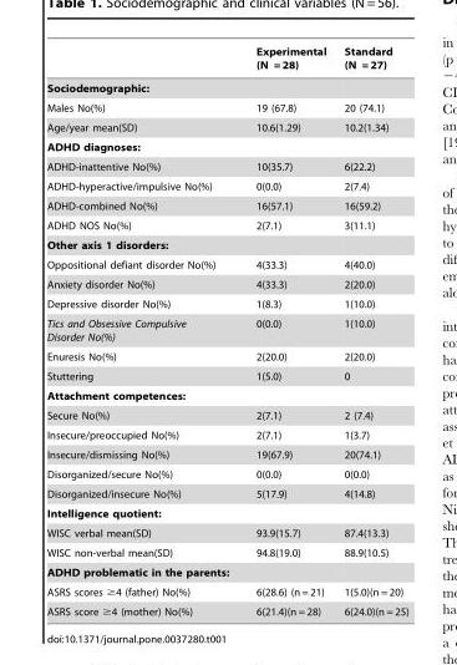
<table><thead><tr><td></td><td>Experimental (N = 28)</td><td>Standard (N = 27)</td></tr></thead><tbody><tr><td colspan="3">Sociodemographic:</td></tr><tr><td>Males No(%)</td><td>19 (67.8)</td><td>20 (74.1)</td></tr><tr><td>Age/year mean(SD)</td><td>10.6(1.29)</td><td>10.2(1.34)</td></tr><tr><td colspan="3">ADHD diagnoses:</td></tr><tr><td>ADHD-inattentive No(%)</td><td>10(35.7)</td><td>6(22.2)</td></tr><tr><td>ADHD-hyperactive/impulsive No(%)</td><td>0(0.0)</td><td>2(7.4)</td></tr><tr><td>ADHD-combined No(%)</td><td>16(57.1)</td><td>16(59.2)</td></tr><tr><td>ADHD NOS No(%)</td><td>2(7.1)</td><td>3(11.1)</td></tr><tr><td colspan="3">Other axis 1 disorders:</td></tr><tr><td>Oppositional defiant disorder No(%)</td><td>4(33.3)</td><td>4(40.0)</td></tr><tr><td>Anxiety disorder No(%)</td><td>4(33.3)</td><td>2(20.0)</td></tr><tr><td>Depressive disorder No(%)</td><td>1(8.3)</td><td>1(10.0)</td></tr><tr><td>Tics and Obsessive Compulsive Disorder No(%)</td><td>0(0.0)</td><td>1(10.0)</td></tr><tr><td>Enuresis No(%)</td><td>2(20.0)</td><td>2(20.0)</td></tr><tr><td>Stuttering</td><td>1(5.0)</td><td>0</td></tr><tr><td colspan="3">Attachment competences:</td></tr><tr><td>Secure No(%)</td><td>2(7.1)</td><td>2 (7.4)</td></tr><tr><td>Insecure/preoccupied No(%)</td><td>2(7.1)</td><td>1(3.7)</td></tr><tr><td>Insecure/dismissing No(%)</td><td>19(67.9)</td><td>20(74.1)</td></tr><tr><td>Disorganized/secure No(%)</td><td>0(0.0)</td><td>0(0.0)</td></tr><tr><td>Disorganized/insecure No(%)</td><td>5(17.9)</td><td>4(14.8)</td></tr><tr><td colspan="3">Intelligence quotient:</td></tr><tr><td>WISC verbal mean(SD)</td><td>93.9(15.7)</td><td>87.4(13.3)</td></tr><tr><td>WISC non-verbal mean(SD)</td><td>94.8(19.0)</td><td>88.9(10.5)</td></tr><tr><td colspan="3">ADHD problematic in the parents:</td></tr><tr><td>ASRS scores ≥4 (father) No(%)</td><td>6(28.6) (n = 21)</td><td>1(5.0)(n = 20)</td></tr><tr><td>ASRS score ≥4 (mother) No(%)</td><td>6(21.4)(n = 28)</td><td>6(24.0)(n = 25)</td></tr></tbody></table>